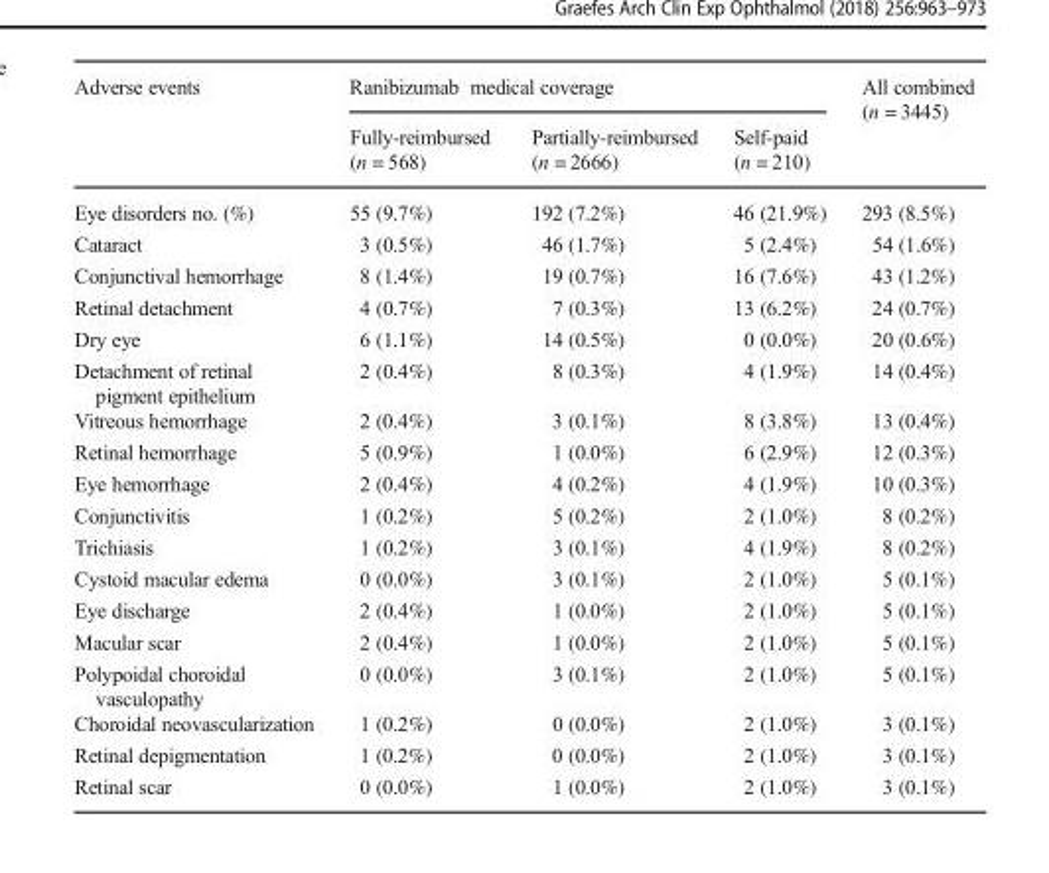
<table><thead><tr><td rowspan="2">Adverse events</td><td colspan="3">Ranibizumab medical coverage</td><td rowspan="2">All combined (n = 3445)</td></tr><tr><td>Fully-reimbursed (n = 568)</td><td>Partially-reimbursed (n = 2666)</td><td>Self-paid (n = 210)</td></tr></thead><tbody><tr><td>Eye disorders no. (%)</td><td>55 (9.7%)</td><td>192 (7.2%)</td><td>46 (21.9%)</td><td>293 (8.5%)</td></tr><tr><td>Cataract</td><td>3 (0.5%)</td><td>46 (1.7%)</td><td>5 (2.4%)</td><td>54 (1.6%)</td></tr><tr><td>Conjunctival hemorrhage</td><td>8 (1.4%)</td><td>19 (0.7%)</td><td>16 (7.6%)</td><td>43 (1.2%)</td></tr><tr><td>Retinal detachment</td><td>4 (0.7%)</td><td>7 (0.3%)</td><td>13 (6.2%)</td><td>24 (0.7%)</td></tr><tr><td>Dry eye</td><td>6 (1.1%)</td><td>14 (0.5%)</td><td>0 (0.0%)</td><td>20 (0.6%)</td></tr><tr><td>Detachment of retinal pigment epithelium</td><td>2 (0.4%)</td><td>8 (0.3%)</td><td>4 (1.9%)</td><td>14 (0.4%)</td></tr><tr><td>Vitreous hemorrhage</td><td>2 (0.4%)</td><td>3 (0.1%)</td><td>8 (3.8%)</td><td>13 (0.4%)</td></tr><tr><td>Retinal hemorrhage</td><td>5 (0.9%)</td><td>1 (0.0%)</td><td>6 (2.9%)</td><td>12 (0.3%)</td></tr><tr><td>Eye hemorrhage</td><td>2 (0.4%)</td><td>4 (0.2%)</td><td>4 (1.9%)</td><td>10 (0.3%)</td></tr><tr><td>Conjunctivitis</td><td>1 (0.2%)</td><td>5 (0.2%)</td><td>2 (1.0%)</td><td>8 (0.2%)</td></tr><tr><td>Trichiasis</td><td>1 (0.2%)</td><td>3 (0.1%)</td><td>4 (1.9%)</td><td>8 (0.2%)</td></tr><tr><td>Cystoid macular edema</td><td>0 (0.0%)</td><td>3 (0.1%)</td><td>2 (1.0%)</td><td>5 (0.1%)</td></tr><tr><td>Eye discharge</td><td>2 (0.4%)</td><td>1 (0.0%)</td><td>2 (1.0%)</td><td>5 (0.1%)</td></tr><tr><td>Macular scar</td><td>2 (0.4%)</td><td>1 (0.0%)</td><td>2 (1.0%)</td><td>5 (0.1%)</td></tr><tr><td>Polypoidal choroidal vasculopathy</td><td>0 (0.0%)</td><td>3 (0.1%)</td><td>2 (1.0%)</td><td>5 (0.1%)</td></tr><tr><td>Choroidal neovascularization</td><td>1 (0.2%)</td><td>0 (0.0%)</td><td>2 (1.0%)</td><td>3 (0.1%)</td></tr><tr><td>Retinal depigmentation</td><td>1 (0.2%)</td><td>0 (0.0%)</td><td>2 (1.0%)</td><td>3 (0.1%)</td></tr><tr><td>Retinal scar</td><td>0 (0.0%)</td><td>1 (0.0%)</td><td>2 (1.0%)</td><td>3 (0.1%)</td></tr></tbody></table>